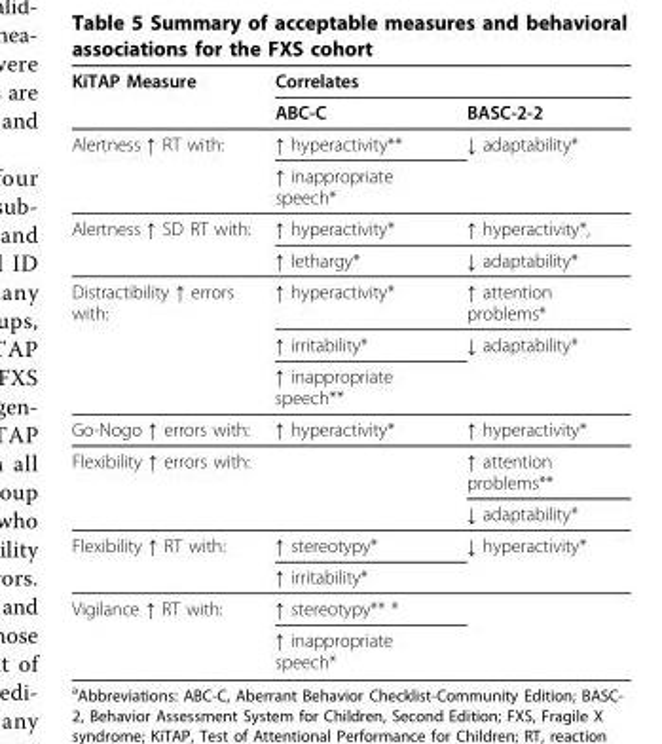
<table><thead><tr><td rowspan="2">KiTAP Measure</td><td colspan="2">Correlates</td></tr><tr><td>ABC-C</td><td>BASC-2-2</td></tr></thead><tbody><tr><td rowspan="2">Alertness ↑ RT with:</td><td>↑ hyperactivity**</td><td>↓ adaptability*</td></tr><tr><td>↑ inappropriate speech*</td><td></td></tr><tr><td rowspan="2">Alertness ↑ SD RT with:</td><td>↑ hyperactivity*</td><td>↑ hyperactivity*,</td></tr><tr><td>↑ lethargy*</td><td>↓ adaptability*</td></tr><tr><td rowspan="3">Distractibility ↑ errors with:</td><td>↑ hyperactivity*</td><td>↑ attention problems*</td></tr><tr><td>↑ irritability*</td><td>↓ adaptability*</td></tr><tr><td>↑ inappropriate speech**</td><td></td></tr><tr><td>Go-Nogo ↑ errors with:</td><td>↑ hyperactivity*</td><td>↑ hyperactivity*</td></tr><tr><td rowspan="2">Flexibility ↑ errors with:</td><td></td><td>↑ attention problems**</td></tr><tr><td></td><td>↓ adaptability*</td></tr><tr><td rowspan="2">Flexibility ↑ RT with:</td><td>↑ stereotypy*</td><td>↓ hyperactivity*</td></tr><tr><td>↑ irritability*</td><td></td></tr><tr><td rowspan="2">Vigilance ↑ RT with:</td><td>↑ stereotypy** *</td><td></td></tr><tr><td>↑ inappropriate speech*</td><td></td></tr></tbody></table>